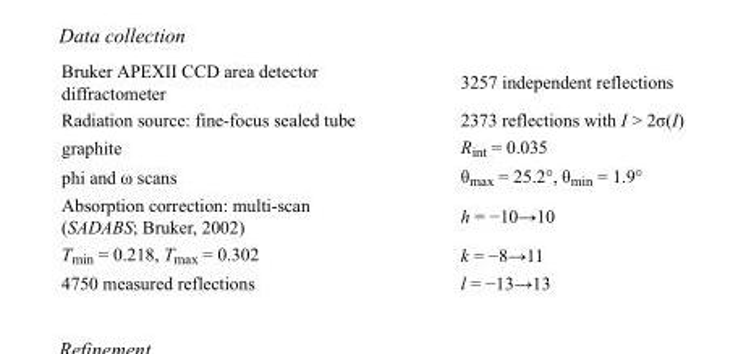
<table><tbody><tr><td>Bruker APEXII CCD area detector diffractometer</td><td>3257 independent reflections</td></tr><tr><td>Radiation source: fine-focus sealed tube</td><td>2373 reflections with I &gt; 2σ(I)</td></tr><tr><td>graphite</td><td>R<sub>int</sub> = 0.035</td></tr><tr><td>phi and ω scans</td><td>θ<sub>max</sub> = 25.2°, θ<sub>min</sub> = 1.9°</td></tr><tr><td>Absorption correction: multi-scan (SADABS; Bruker, 2002)</td><td>h = −10→10</td></tr><tr><td>T<sub>min</sub> = 0.218, T<sub>max</sub> = 0.302</td><td>k = −8→11</td></tr><tr><td>4750 measured reflections</td><td>l = −13→13</td></tr></tbody></table>